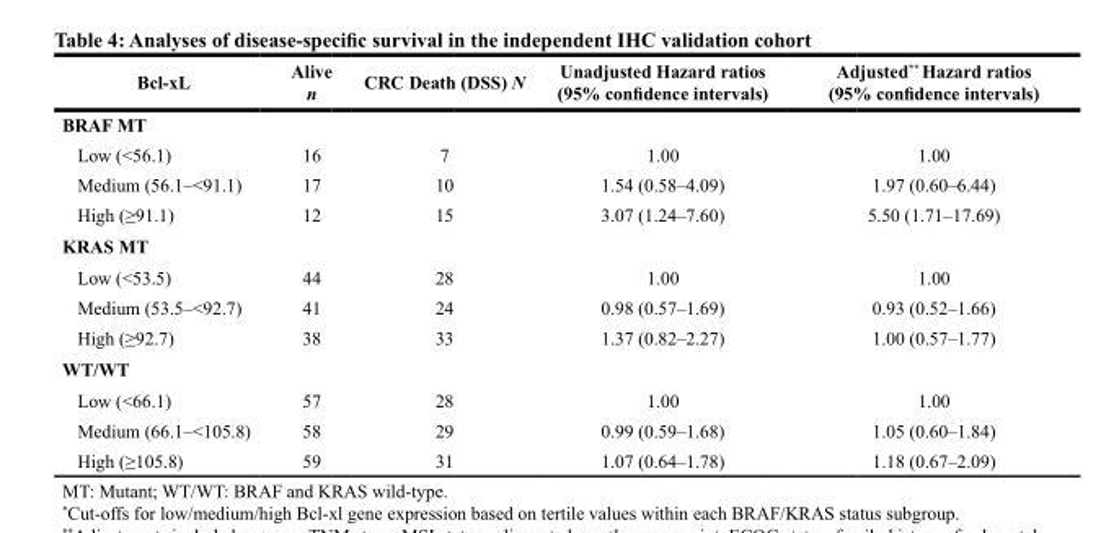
<table><thead><tr><td>Bcl-xL</td><td>Alive n</td><td>CRC Death (DSS) N</td><td>Unadjusted Hazard ratios (95% confidence intervals)</td><td>Adjusted** Hazard ratios (95% confidence intervals)</td></tr></thead><tbody><tr><td colspan="5">BRAF MT</td></tr><tr><td>Low (&lt;56.1)</td><td>16</td><td>7</td><td>1.00</td><td>1.00</td></tr><tr><td>Medium (56.1–&lt;91.1)</td><td>17</td><td>10</td><td>1.54 (0.58–4.09)</td><td>1.97 (0.60–6.44)</td></tr><tr><td>High (≥91.1)</td><td>12</td><td>15</td><td>3.07 (1.24–7.60)</td><td>5.50 (1.71–17.69)</td></tr><tr><td colspan="5">KRAS MT</td></tr><tr><td>Low (&lt;53.5)</td><td>44</td><td>28</td><td>1.00</td><td>1.00</td></tr><tr><td>Medium (53.5–&lt;92.7)</td><td>41</td><td>24</td><td>0.98 (0.57–1.69)</td><td>0.93 (0.52–1.66)</td></tr><tr><td>High (≥92.7)</td><td>38</td><td>33</td><td>1.37 (0.82–2.27)</td><td>1.00 (0.57–1.77)</td></tr><tr><td colspan="5">WT/WT</td></tr><tr><td>Low (&lt;66.1)</td><td>57</td><td>28</td><td>1.00</td><td>1.00</td></tr><tr><td>Medium (66.1–&lt;105.8)</td><td>58</td><td>29</td><td>0.99 (0.59–1.68)</td><td>1.05 (0.60–1.84)</td></tr><tr><td>High (≥105.8)</td><td>59</td><td>31</td><td>1.07 (0.64–1.78)</td><td>1.18 (0.67–2.09)</td></tr></tbody></table>